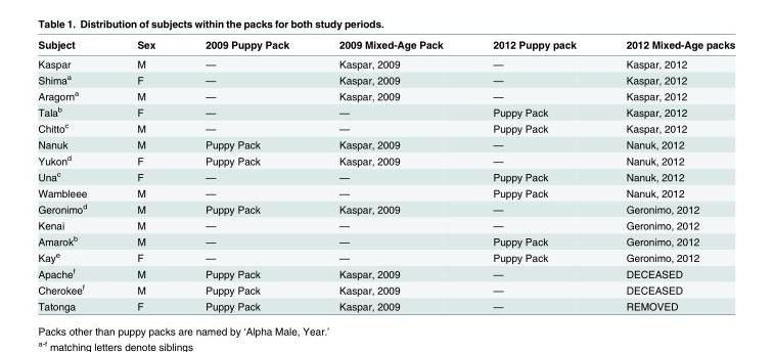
<table><thead><tr><td>Subject</td><td>Sex</td><td>2009 Puppy Pack</td><td>2009 Mixed-Age Pack</td><td>2012 Puppy pack</td><td>2012 Mixed-Age packs</td></tr></thead><tbody><tr><td>Kaspar</td><td>M</td><td>—</td><td>Kaspar, 2009</td><td>—</td><td>Kaspar, 2012</td></tr><tr><td>Shima<sup>a</sup></td><td>F</td><td>—</td><td>Kaspar, 2009</td><td>—</td><td>Kaspar, 2012</td></tr><tr><td>Aragorn<sup>a</sup></td><td>M</td><td>—</td><td>Kaspar, 2009</td><td>—</td><td>Kaspar, 2012</td></tr><tr><td>Tala<sup>b</sup></td><td>F</td><td>—</td><td>—</td><td>Puppy Pack</td><td>Kaspar, 2012</td></tr><tr><td>Chitto<sup>c</sup></td><td>M</td><td>—</td><td>—</td><td>Puppy Pack</td><td>Kaspar, 2012</td></tr><tr><td>Nanuk</td><td>M</td><td>Puppy Pack</td><td>Kaspar, 2009</td><td>—</td><td>Nanuk, 2012</td></tr><tr><td>Yukon<sup>d</sup></td><td>F</td><td>Puppy Pack</td><td>Kaspar, 2009</td><td>—</td><td>Nanuk, 2012</td></tr><tr><td>Una<sup>c</sup></td><td>F</td><td>—</td><td>—</td><td>Puppy Pack</td><td>Nanuk, 2012</td></tr><tr><td>Wambleee</td><td>M</td><td>—</td><td>—</td><td>Puppy Pack</td><td>Nanuk, 2012</td></tr><tr><td>Geronimo<sup>d</sup></td><td>M</td><td>Puppy Pack</td><td>Kaspar, 2009</td><td>—</td><td>Geronimo, 2012</td></tr><tr><td>Kenai</td><td>M</td><td>—</td><td>—</td><td>—</td><td>Geronimo, 2012</td></tr><tr><td>Amarok<sup>b</sup></td><td>M</td><td>—</td><td>—</td><td>Puppy Pack</td><td>Geronimo, 2012</td></tr><tr><td>Kay<sup>e</sup></td><td>F</td><td>—</td><td>—</td><td>Puppy Pack</td><td>Geronimo, 2012</td></tr><tr><td>Apache<sup>f</sup></td><td>M</td><td>Puppy Pack</td><td>Kaspar, 2009</td><td>—</td><td>DECEASED</td></tr><tr><td>Cherokee<sup>f</sup></td><td>M</td><td>Puppy Pack</td><td>Kaspar, 2009</td><td>—</td><td>DECEASED</td></tr><tr><td>Tatonga</td><td>F</td><td>Puppy Pack</td><td>Kaspar, 2009</td><td>—</td><td>REMOVED</td></tr></tbody></table>